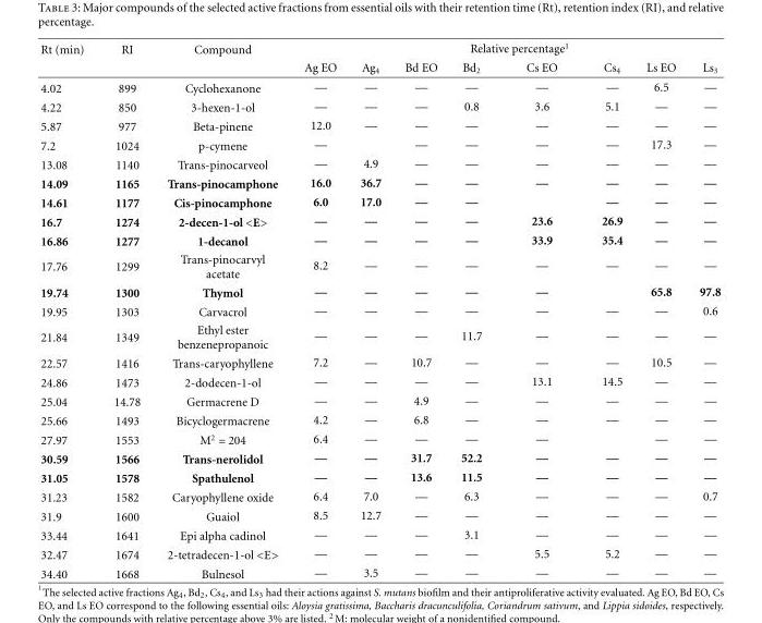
<table><thead><tr><td rowspan="2">Rt (min)</td><td rowspan="2">RI</td><td rowspan="2">Compound</td><td rowspan="2">Ag EO</td><td rowspan="2">Ag<sub>4</sub></td><td rowspan="2">Bd EO</td><td colspan="2">Relative percentage<sup>1</sup></td><td rowspan="2">Cs<sub>4</sub></td><td rowspan="2">Ls EO</td><td rowspan="2">Ls<sub>3</sub></td></tr><tr><td>Bd<sub>2</sub></td><td>Cs EO</td></tr></thead><tbody><tr><td>4.02</td><td>899</td><td>Cyclohexanone</td><td>—</td><td>—</td><td>—</td><td>—</td><td>—</td><td>—</td><td>6.5</td><td>—</td></tr><tr><td>4.22</td><td>850</td><td>3-hexen-1-ol</td><td>—</td><td>—</td><td>—</td><td>0.8</td><td>3.6</td><td>5.1</td><td>—</td><td>—</td></tr><tr><td>5.87</td><td>977</td><td>Beta-pinene</td><td>12.0</td><td>—</td><td>—</td><td>—</td><td>—</td><td>—</td><td>—</td><td>—</td></tr><tr><td>7.2</td><td>1024</td><td>p-cymene</td><td>—</td><td></td><td>—</td><td>—</td><td>—</td><td>—</td><td>17.3</td><td>—</td></tr><tr><td>13.08</td><td>1140</td><td>Trans-pinocarveol</td><td>—</td><td>4.9</td><td>—</td><td>—</td><td>—</td><td>—</td><td>—</td><td>—</td></tr><tr><td>14.09</td><td>1165</td><td>Trans-pinocamphone</td><td>16.0</td><td>36.7</td><td>—</td><td>—</td><td>—</td><td>—</td><td>—</td><td>—</td></tr><tr><td>14.61</td><td>1177</td><td>Cis-pinocamphone</td><td>6.0</td><td>17.0</td><td>—</td><td>—</td><td></td><td>—</td><td>—</td><td>—</td></tr><tr><td>16.7</td><td>1274</td><td>2-decen-1-ol &lt;E&gt;</td><td>—</td><td>—</td><td>—</td><td>—</td><td>23.6</td><td>26.9</td><td>—</td><td>—</td></tr><tr><td>16.86</td><td>1277</td><td>1-decanol</td><td>—</td><td>—</td><td>—</td><td>—</td><td>33.9</td><td>35.4</td><td>—</td><td>—</td></tr><tr><td>17.76</td><td>1299</td><td>Trans-pinocarvyl acetate</td><td>8.2</td><td>—</td><td>—</td><td>—</td><td>—</td><td>—</td><td>—</td><td>—</td></tr><tr><td>19.74</td><td>1300</td><td>Thymol</td><td>—</td><td>—</td><td>—</td><td>—</td><td>—</td><td></td><td>65.8</td><td>97.8</td></tr><tr><td>19.95</td><td>1303</td><td>Carvacrol</td><td>—</td><td>—</td><td>—</td><td>—</td><td>—</td><td>—</td><td>—</td><td>0.6</td></tr><tr><td>21.84</td><td>1349</td><td>Ethyl ester benzenepropanoic</td><td>—</td><td>—</td><td>—</td><td>11.7</td><td>—</td><td>—</td><td>—</td><td>—</td></tr><tr><td>22.57</td><td>1416</td><td>Trans-caryophyllene</td><td>7.2</td><td>—</td><td>10.7</td><td>—</td><td>—</td><td>—</td><td>10.5</td><td>—</td></tr><tr><td>24.86</td><td>1473</td><td>2-dodecen-1-ol</td><td>—</td><td>—</td><td>—</td><td>—</td><td>13.1</td><td>14.5</td><td>—</td><td>—</td></tr><tr><td>25.04</td><td>14.78</td><td>Germacrene D</td><td>—</td><td>—</td><td>4.9</td><td>—</td><td>—</td><td>—</td><td>—</td><td>—</td></tr><tr><td>25.66</td><td>1493</td><td>Bicyclogermacrene</td><td>4.2</td><td>—</td><td>6.8</td><td>—</td><td>—</td><td>—</td><td>—</td><td>—</td></tr><tr><td>27.97</td><td>1553</td><td>M<sup>2</sup> = 204</td><td>6.4</td><td>—</td><td>—</td><td>—</td><td>—</td><td></td><td>—</td><td>—</td></tr><tr><td>30.59</td><td>1566</td><td>Trans-nerolidol</td><td>—</td><td>—</td><td>31.7</td><td>52.2</td><td>—</td><td>—</td><td>—</td><td>—</td></tr><tr><td>31.05</td><td>1578</td><td>Spathulenol</td><td>—</td><td>—</td><td>13.6</td><td>11.5</td><td>—</td><td>—</td><td>—</td><td>—</td></tr><tr><td>31.23</td><td>1582</td><td>Caryophyllene oxide</td><td>6.4</td><td>7.0</td><td>—</td><td>6.3</td><td>—</td><td>—</td><td>—</td><td>0.7</td></tr><tr><td>31.9</td><td>1600</td><td>Guaiol</td><td>8.5</td><td>12.7</td><td>—</td><td>—</td><td>—</td><td>—</td><td>—</td><td>—</td></tr><tr><td>33.44</td><td>1641</td><td>Epi alpha cadinol</td><td>—</td><td>—</td><td>—</td><td>3.1</td><td>—</td><td>—</td><td>—</td><td>—</td></tr><tr><td>32.47</td><td>1674</td><td>2-tetradecen-1-ol &lt;E&gt;</td><td>—</td><td>—</td><td>—</td><td>—</td><td>5.5</td><td>5.2</td><td>—</td><td>—</td></tr><tr><td>34.40</td><td>1668</td><td>Bulnesol</td><td>—</td><td>3.5</td><td>—</td><td>—</td><td>—</td><td>—</td><td>—</td><td>—</td></tr></tbody></table>